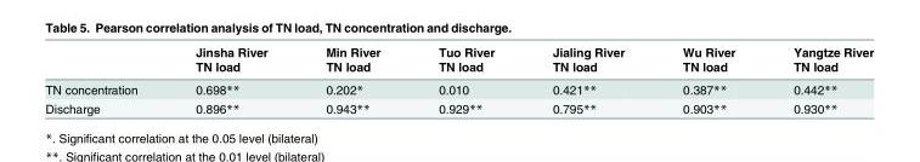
<table><thead><tr><td rowspan="2"></td><td rowspan="2">Jinsha River TN load</td><td rowspan="2">Min River TN load</td><td rowspan="2">Tuo River TN load</td><td rowspan="2">Jialing River TN load</td><td rowspan="2">Wu River TN load</td><td rowspan="2">Yangtze River TN load</td></tr><tr></tr></thead><tbody><tr><td>TN concentration</td><td>0.698**</td><td>0.202*</td><td>0.010</td><td>0.421**</td><td>0.387**</td><td>0.442**</td></tr><tr><td>Discharge</td><td>0.896**</td><td>0.943**</td><td>0.929**</td><td>0.795**</td><td>0.903**</td><td>0.930**</td></tr></tbody></table>